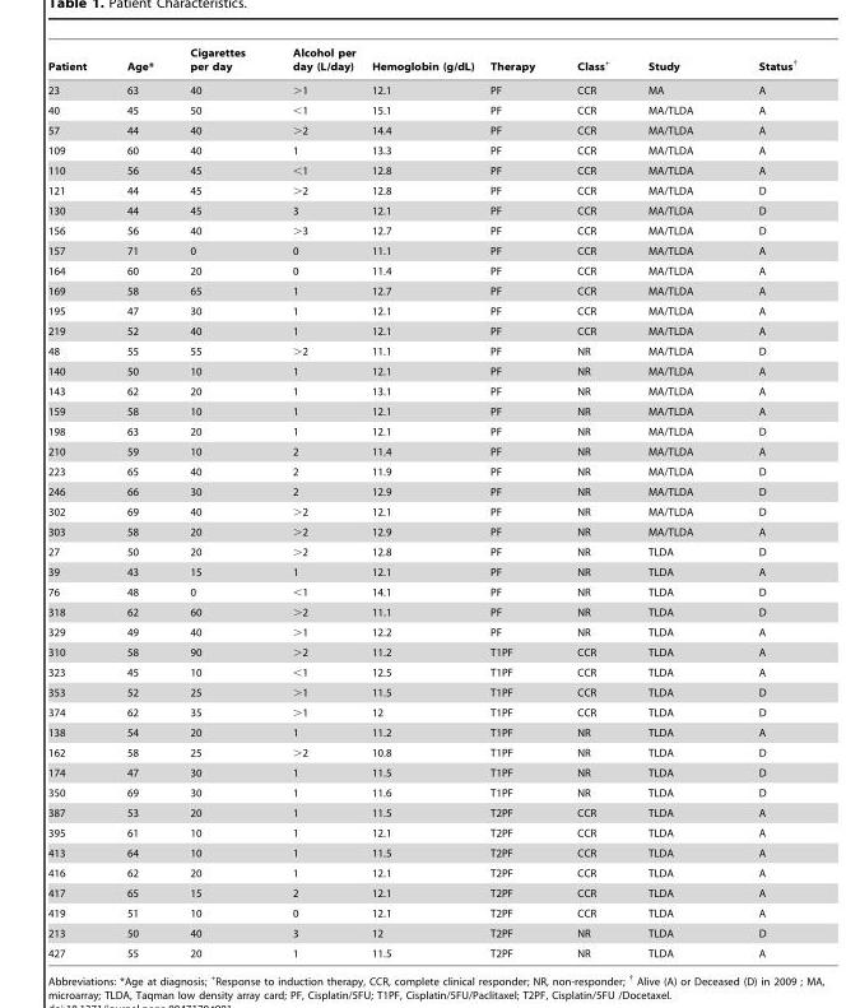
<table><thead><tr><td>Patient</td><td>Age*</td><td>Cigarettes per day</td><td>Alcohol per day (L/day)</td><td>Hemoglobin (g/dL)</td><td>Therapy</td><td>Class<sup>+</sup></td><td>Study</td><td>Status<sup>†</sup></td></tr></thead><tbody><tr><td>23</td><td>63</td><td>40</td><td>&gt;1</td><td>12.1</td><td>PF</td><td>CCR</td><td>MA</td><td>A</td></tr><tr><td>40</td><td>45</td><td>50</td><td>&lt;1</td><td>15.1</td><td>PF</td><td>CCR</td><td>MA/TLDA</td><td>A</td></tr><tr><td>57</td><td>44</td><td>40</td><td>&gt;2</td><td>14.4</td><td>PF</td><td>CCR</td><td>MA/TLDA</td><td>A</td></tr><tr><td>109</td><td>60</td><td>40</td><td>1</td><td>13.3</td><td>PF</td><td>CCR</td><td>MA/TLDA</td><td>A</td></tr><tr><td>110</td><td>56</td><td>45</td><td>&lt;1</td><td>12.8</td><td>PF</td><td>CCR</td><td>MA/TLDA</td><td>A</td></tr><tr><td>121</td><td>44</td><td>45</td><td>&gt;2</td><td>12.8</td><td>PF</td><td>CCR</td><td>MA/TLDA</td><td>D</td></tr><tr><td>130</td><td>44</td><td>45</td><td>3</td><td>12.1</td><td>PF</td><td>CCR</td><td>MA/TLDA</td><td>D</td></tr><tr><td>156</td><td>56</td><td>40</td><td>&gt;3</td><td>12.7</td><td>PF</td><td>CCR</td><td>MA/TLDA</td><td>D</td></tr><tr><td>157</td><td>71</td><td>0</td><td>0</td><td>11.1</td><td>PF</td><td>CCR</td><td>MA/TLDA</td><td>A</td></tr><tr><td>164</td><td>60</td><td>20</td><td>0</td><td>11.4</td><td>PF</td><td>CCR</td><td>MA/TLDA</td><td>A</td></tr><tr><td>169</td><td>58</td><td>65</td><td>1</td><td>12.7</td><td>PF</td><td>CCR</td><td>MA/TLDA</td><td>A</td></tr><tr><td>195</td><td>47</td><td>30</td><td>1</td><td>12.1</td><td>PF</td><td>CCR</td><td>MA/TLDA</td><td>A</td></tr><tr><td>219</td><td>52</td><td>40</td><td>1</td><td>12.1</td><td>PF</td><td>CCR</td><td>MA/TLDA</td><td>A</td></tr><tr><td>48</td><td>55</td><td>55</td><td>&gt;2</td><td>11.1</td><td>PF</td><td>NR</td><td>MA/TLDA</td><td>D</td></tr><tr><td>140</td><td>50</td><td>10</td><td>1</td><td>12.1</td><td>PF</td><td>NR</td><td>MA/TLDA</td><td>A</td></tr><tr><td>143</td><td>62</td><td>20</td><td>1</td><td>13.1</td><td>PF</td><td>NR</td><td>MA/TLDA</td><td>A</td></tr><tr><td>159</td><td>58</td><td>10</td><td>1</td><td>12.1</td><td>PF</td><td>NR</td><td>MA/TLDA</td><td>A</td></tr><tr><td>198</td><td>63</td><td>20</td><td>1</td><td>12.1</td><td>PF</td><td>NR</td><td>MA/TLDA</td><td>D</td></tr><tr><td>210</td><td>59</td><td>10</td><td>2</td><td>11.4</td><td>PF</td><td>NR</td><td>MA/TLDA</td><td>A</td></tr><tr><td>223</td><td>65</td><td>40</td><td>2</td><td>11.9</td><td>PF</td><td>NR</td><td>MA/TLDA</td><td>D</td></tr><tr><td>246</td><td>66</td><td>30</td><td>2</td><td>12.9</td><td>PF</td><td>NR</td><td>MA/TLDA</td><td>D</td></tr><tr><td>302</td><td>69</td><td>40</td><td>&gt;2</td><td>12.1</td><td>PF</td><td>NR</td><td>MA/TLDA</td><td>D</td></tr><tr><td>303</td><td>58</td><td>20</td><td>&gt;2</td><td>12.9</td><td>PF</td><td>NR</td><td>MA/TLDA</td><td>A</td></tr><tr><td>27</td><td>50</td><td>20</td><td>&gt;2</td><td>12.8</td><td>PF</td><td>NR</td><td>TLDA</td><td>D</td></tr><tr><td>39</td><td>43</td><td>15</td><td>1</td><td>12.1</td><td>PF</td><td>NR</td><td>TLDA</td><td>A</td></tr><tr><td>76</td><td>48</td><td>0</td><td>&lt;1</td><td>14.1</td><td>PF</td><td>NR</td><td>TLDA</td><td>D</td></tr><tr><td>318</td><td>62</td><td>60</td><td>&gt;2</td><td>11.1</td><td>PF</td><td>NR</td><td>TLDA</td><td>D</td></tr><tr><td>329</td><td>49</td><td>40</td><td>&gt;1</td><td>12.2</td><td>PF</td><td>NR</td><td>TLDA</td><td>A</td></tr><tr><td>310</td><td>58</td><td>90</td><td>&gt;2</td><td>11.2</td><td>T1PF</td><td>CCR</td><td>TLDA</td><td>A</td></tr><tr><td>323</td><td>45</td><td>10</td><td>&lt;1</td><td>12.5</td><td>T1PF</td><td>CCR</td><td>TLDA</td><td>A</td></tr><tr><td>353</td><td>52</td><td>25</td><td>&gt;1</td><td>11.5</td><td>T1PF</td><td>CCR</td><td>TLDA</td><td>D</td></tr><tr><td>374</td><td>62</td><td>35</td><td>&gt;1</td><td>12</td><td>T1PF</td><td>CCR</td><td>TLDA</td><td>D</td></tr><tr><td>138</td><td>54</td><td>20</td><td>1</td><td>11.2</td><td>T1PF</td><td>NR</td><td>TLDA</td><td>A</td></tr><tr><td>162</td><td>58</td><td>25</td><td>&gt;2</td><td>10.8</td><td>T1PF</td><td>NR</td><td>TLDA</td><td>D</td></tr><tr><td>174</td><td>47</td><td>30</td><td>1</td><td>11.5</td><td>T1PF</td><td>NR</td><td>TLDA</td><td>D</td></tr><tr><td>350</td><td>69</td><td>30</td><td>1</td><td>11.6</td><td>T1PF</td><td>NR</td><td>TLDA</td><td>D</td></tr><tr><td>387</td><td>53</td><td>20</td><td>1</td><td>11.5</td><td>T2PF</td><td>CCR</td><td>TLDA</td><td>A</td></tr><tr><td>395</td><td>61</td><td>10</td><td>1</td><td>12.1</td><td>T2PF</td><td>CCR</td><td>TLDA</td><td>A</td></tr><tr><td>413</td><td>64</td><td>10</td><td>1</td><td>11.5</td><td>T2PF</td><td>CCR</td><td>TLDA</td><td>A</td></tr><tr><td>416</td><td>62</td><td>20</td><td>1</td><td>12.1</td><td>T2PF</td><td>CCR</td><td>TLDA</td><td>A</td></tr><tr><td>417</td><td>65</td><td>15</td><td>2</td><td>12.1</td><td>T2PF</td><td>CCR</td><td>TLDA</td><td>A</td></tr><tr><td>419</td><td>51</td><td>10</td><td>0</td><td>12.1</td><td>T2PF</td><td>CCR</td><td>TLDA</td><td>A</td></tr><tr><td>213</td><td>50</td><td>40</td><td>3</td><td>12</td><td>T2PF</td><td>NR</td><td>TLDA</td><td>D</td></tr><tr><td>427</td><td>55</td><td>20</td><td>1</td><td>11.5</td><td>T2PF</td><td>NR</td><td>TLDA</td><td>A</td></tr></tbody></table>